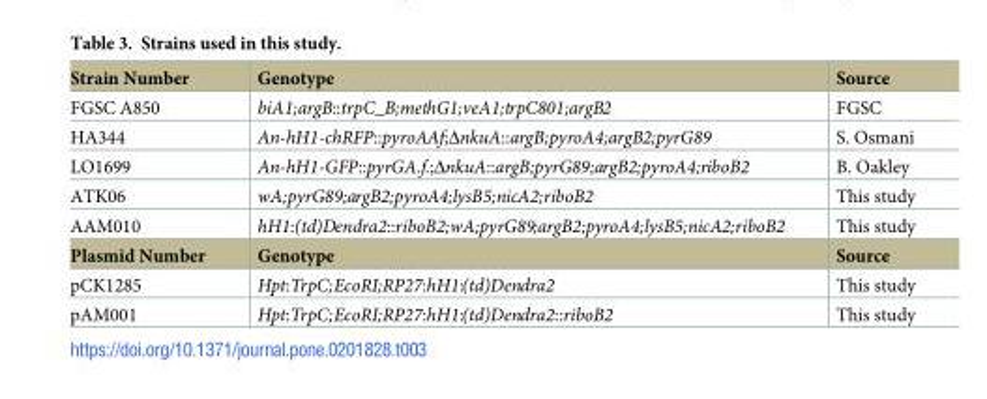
<table><tbody><tr><td>Strain Number</td><td>Genotype</td><td>Source</td></tr><tr><td>FGSC A850</td><td>biA1;argB::trpC_B;methG1;veA1;trpC801;argB2</td><td>FGSC</td></tr><tr><td>HA344</td><td>An-hH1-chRFP::pyroAAf;ΔnkuA::argB;pyroA4;argB2;pyrG89</td><td>S. Osmani</td></tr><tr><td>LO1699</td><td>An-hH1-GFP::pyrGA.f.;ΔnkuA::argB;pyrG89;argB2;pyroA4;riboB2</td><td>B. Oakley</td></tr><tr><td>ATK06</td><td>wA;pyrG89;argB2;pyroA4;lysB5;nicA2;riboB2</td><td>This study</td></tr><tr><td>AAM010</td><td>hH1:(td)Dendra2::riboB2;wA;pyrG89;argB2;pyroA4;lysB5;nicA2;riboB2</td><td>This study</td></tr><tr><td>Plasmid Number</td><td>Genotype</td><td>Source</td></tr><tr><td>pCK1285</td><td>Hpt:TrpC;EcoRI;RP27:hH1:(td)Dendra2</td><td>This study</td></tr><tr><td>pAM001</td><td>Hpt:TrpC;EcoRI;RP27:hH1:(td)Dendra2::riboB2</td><td>This study</td></tr></tbody></table>